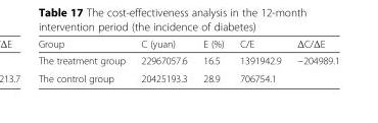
<table><thead><tr><td>Group</td><td>C (yuan)</td><td>E (%)</td><td>C/E</td><td>ΔC/ΔE</td></tr></thead><tbody><tr><td>The treatment group</td><td>22967057.6</td><td>16.5</td><td>1391942.9</td><td>−204989.1</td></tr><tr><td>The control group</td><td>20425193.3</td><td>28.9</td><td>706754.1</td><td></td></tr></tbody></table>